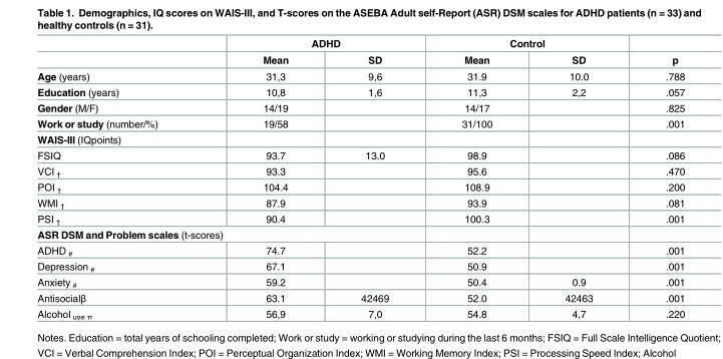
<table><thead><tr><td rowspan="2"></td><td colspan="2">ADHD</td><td colspan="2">Control</td><td rowspan="2">p</td></tr><tr><td>Mean</td><td>SD</td><td>Mean</td><td>SD</td></tr></thead><tbody><tr><td>Age (years)</td><td>31,3</td><td>9,6</td><td>31.9</td><td>10.0</td><td>.788</td></tr><tr><td>Education (years)</td><td>10,8</td><td>1,6</td><td>11,3</td><td>2,2</td><td>.057</td></tr><tr><td>Gender (M/F)</td><td>14/19</td><td></td><td>14/17</td><td></td><td>.825</td></tr><tr><td>Work or study (number/%)</td><td>19/58</td><td></td><td>31/100</td><td></td><td>.001</td></tr><tr><td colspan="6">WAIS-III (IQpoints)</td></tr><tr><td>FSIQ</td><td>93.7</td><td>13.0</td><td>98.9</td><td></td><td>.086</td></tr><tr><td>VCI <sub>†</sub></td><td>93.3</td><td></td><td>95.6</td><td></td><td>.470</td></tr><tr><td>POI <sub>†</sub></td><td>104.4</td><td></td><td>108.9</td><td></td><td>.200</td></tr><tr><td>WMI <sub>†</sub></td><td>87.9</td><td></td><td>93.9</td><td></td><td>.081</td></tr><tr><td>PSI <sub>†</sub></td><td>90.4</td><td></td><td>100.3</td><td></td><td>.001</td></tr><tr><td colspan="6">ASR DSM and Problem scales (t-scores)</td></tr><tr><td>ADHD <sub>#</sub></td><td>74.7</td><td></td><td>52.2</td><td></td><td>.001</td></tr><tr><td>Depression <sub>#</sub></td><td>67.1</td><td></td><td>50.9</td><td></td><td>.001</td></tr><tr><td>Anxiety <sub>#</sub></td><td>59.2</td><td></td><td>50.4</td><td>0.9</td><td>.001</td></tr><tr><td>Antisocialβ</td><td>63.1</td><td>42469</td><td>52.0</td><td>42463</td><td>.001</td></tr><tr><td>Alcohol <sub>use π</sub></td><td>56,9</td><td>7,0</td><td>54.8</td><td>4,7</td><td>.220</td></tr></tbody></table>